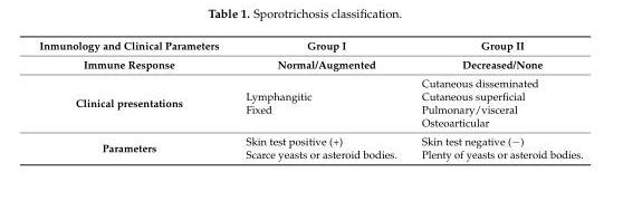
<table><thead><tr><td rowspan="2">Inmunology and Clinical Parameters Immune Response</td><td rowspan="2">Group I Normal/Augmented</td><td rowspan="2">Group II Decreased/None</td></tr><tr></tr></thead><tbody><tr><td>Clinical presentations</td><td>Lymphangitic Fixed</td><td>Cutaneous disseminated Cutaneous superficial Pulmonary/visceral Osteoarticular</td></tr><tr><td>Parameters</td><td>Skin test positive (+) Scarce yeasts or asteroid bodies.</td><td>Skin test negative (−) Plenty of yeasts or asteroid bodies.</td></tr></tbody></table>